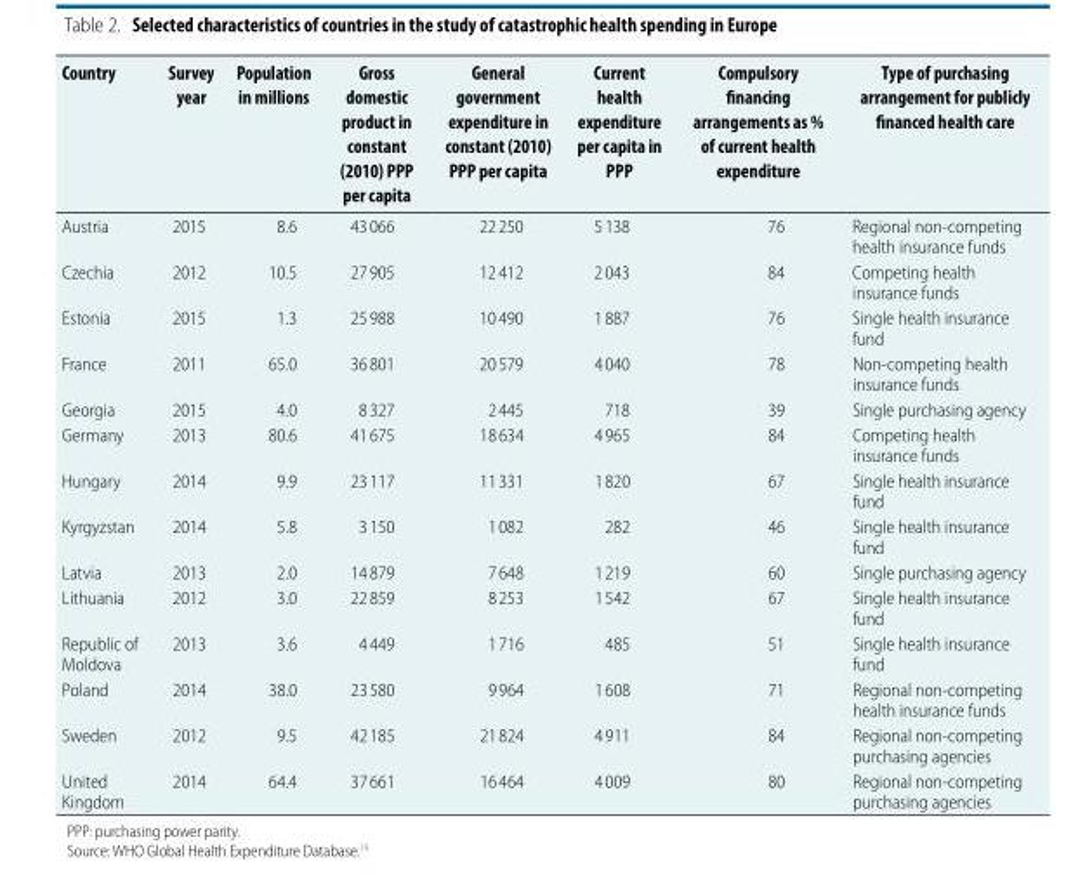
<table><thead><tr><td>Country</td><td>Survey year</td><td>Population in millions</td><td>Gross domestic product in constant (2010) PPP per capita</td><td>General government expenditure in constant (2010) PPP per capita</td><td>Current health expenditure per capita in PPP</td><td>Compulsory financing arrangements as % of current health expenditure</td><td>Type of purchasing arrangement for publicly financed health care</td></tr></thead><tbody><tr><td>Austria</td><td>2015</td><td>8.6</td><td>43 066</td><td>22 250</td><td>5 138</td><td>76</td><td>Regional non-competing health insurance funds</td></tr><tr><td>Czechia</td><td>2012</td><td>10.5</td><td>27 905</td><td>12 412</td><td>2 043</td><td>84</td><td>Competing health insurance funds</td></tr><tr><td>Estonia</td><td>2015</td><td>1.3</td><td>25 988</td><td>10 490</td><td>1 887</td><td>76</td><td>Single health insurance fund</td></tr><tr><td>France</td><td>2011</td><td>65.0</td><td>36 801</td><td>20 579</td><td>4 040</td><td>78</td><td>Non-competing health insurance funds</td></tr><tr><td>Georgia</td><td>2015</td><td>4.0</td><td>8 327</td><td>2 445</td><td>718</td><td>39</td><td>Single purchasing agency</td></tr><tr><td>Germany</td><td>2013</td><td>80.6</td><td>41 675</td><td>18 634</td><td>4 965</td><td>84</td><td>Competing health insurance funds</td></tr><tr><td>Hungary</td><td>2014</td><td>9.9</td><td>23 117</td><td>11 331</td><td>1 820</td><td>67</td><td>Single health insurance fund</td></tr><tr><td>Kyrgyzstan</td><td>2014</td><td>5.8</td><td>3 150</td><td>1 082</td><td>282</td><td>46</td><td>Single health insurance fund</td></tr><tr><td>Latvia</td><td>2013</td><td>2.0</td><td>14 879</td><td>7 648</td><td>1 219</td><td>60</td><td>Single purchasing agency</td></tr><tr><td>Lithuania</td><td>2012</td><td>3.0</td><td>22 859</td><td>8 253</td><td>1 542</td><td>67</td><td>Single health insurance fund</td></tr><tr><td>Republic of Moldova</td><td>2013</td><td>3.6</td><td>4 449</td><td>1 716</td><td>485</td><td>51</td><td>Single health insurance fund</td></tr><tr><td>Poland</td><td>2014</td><td>38.0</td><td>23 580</td><td>9 964</td><td>1 608</td><td>71</td><td>Regional non-competing health insurance funds</td></tr><tr><td>Sweden</td><td>2012</td><td>9.5</td><td>42 185</td><td>21 824</td><td>4 911</td><td>84</td><td>Regional non-competing purchasing agencies</td></tr><tr><td>United Kingdom</td><td>2014</td><td>64.4</td><td>37 661</td><td>16 464</td><td>4 009</td><td>80</td><td>Regional non-competing purchasing agencies</td></tr></tbody></table>